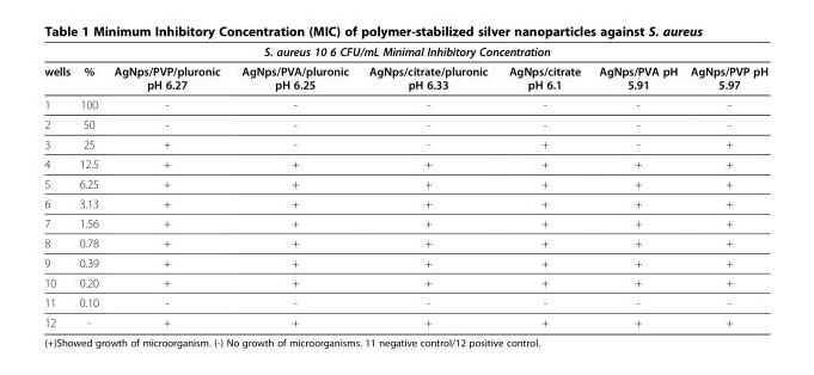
<table><thead><tr><td colspan="8">S. aureus 10 6 CFU/mL Minimal Inhibitory Concentration</td></tr><tr><td>wells</td><td>%</td><td>AgNps/PVP/pluronic pH 6.27</td><td>AgNps/PVA/pluronic pH 6.25</td><td>AgNps/citrate/pluronic pH 6.33</td><td>AgNps/citrate pH 6.1</td><td>AgNps/PVA pH 5.91</td><td>AgNps/PVP pH 5.97</td></tr></thead><tbody><tr><td>1</td><td>100</td><td>-</td><td>-</td><td>-</td><td>-</td><td>-</td><td>-</td></tr><tr><td>2</td><td>50</td><td>-</td><td>-</td><td>-</td><td>-</td><td>-</td><td>-</td></tr><tr><td>3</td><td>25</td><td>+</td><td>-</td><td>-</td><td>+</td><td>-</td><td>+</td></tr><tr><td>4</td><td>12.5</td><td>+</td><td>+</td><td>+</td><td>+</td><td>+</td><td>+</td></tr><tr><td>5</td><td>6.25</td><td>+</td><td>+</td><td>+</td><td>+</td><td>+</td><td>+</td></tr><tr><td>6</td><td>3.13</td><td>+</td><td>+</td><td>+</td><td>+</td><td>+</td><td>+</td></tr><tr><td>7</td><td>1.56</td><td>+</td><td>+</td><td>+</td><td>+</td><td>+</td><td>+</td></tr><tr><td>8</td><td>0.78</td><td>+</td><td>+</td><td>+</td><td>+</td><td>+</td><td>+</td></tr><tr><td>9</td><td>0.39</td><td>+</td><td>+</td><td>+</td><td>+</td><td>+</td><td>+</td></tr><tr><td>10</td><td>0.20</td><td>+</td><td>+</td><td>+</td><td>+</td><td>+</td><td>+</td></tr><tr><td>11</td><td>0.10</td><td>-</td><td>-</td><td>-</td><td>-</td><td>-</td><td>-</td></tr><tr><td>12</td><td>-</td><td>+</td><td>+</td><td>+</td><td>+</td><td>+</td><td>+</td></tr></tbody></table>